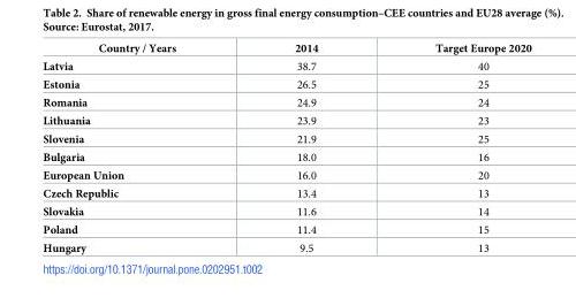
<table><thead><tr><td>Country / Years</td><td>2014</td><td>Target Europe 2020</td></tr></thead><tbody><tr><td>Latvia</td><td>38.7</td><td>40</td></tr><tr><td>Estonia</td><td>26.5</td><td>25</td></tr><tr><td>Romania</td><td>24.9</td><td>24</td></tr><tr><td>Lithuania</td><td>23.9</td><td>23</td></tr><tr><td>Slovenia</td><td>21.9</td><td>25</td></tr><tr><td>Bulgaria</td><td>18.0</td><td>16</td></tr><tr><td>European Union</td><td>16.0</td><td>20</td></tr><tr><td>Czech Republic</td><td>13.4</td><td>13</td></tr><tr><td>Slovakia</td><td>11.6</td><td>14</td></tr><tr><td>Poland</td><td>11.4</td><td>15</td></tr><tr><td>Hungary</td><td>9.5</td><td>13</td></tr></tbody></table>